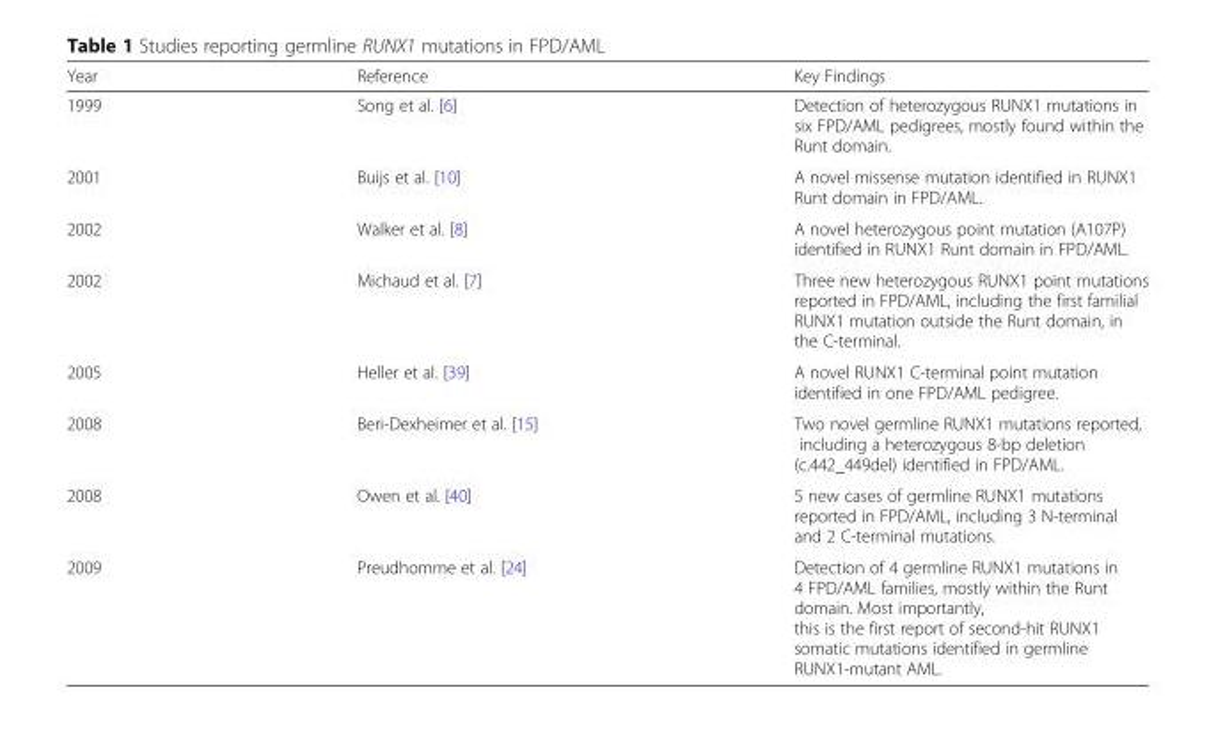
<table><thead><tr><td>Year</td><td>Reference</td><td>Key Findings</td></tr></thead><tbody><tr><td>1999</td><td>Song et al. [6]</td><td>Detection of heterozygous RUNX1 mutations in six FPD/AML pedigrees, mostly found within the Runt domain.</td></tr><tr><td>2001</td><td>Buijs et al. [10]</td><td>A novel missense mutation identified in RUNX1 Runt domain in FPD/AML.</td></tr><tr><td>2002</td><td>Walker et al. [8]</td><td>A novel heterozygous point mutation (A107P) identified in RUNX1 Runt domain in FPD/AML.</td></tr><tr><td>2002</td><td>Michaud et al. [7]</td><td>Three new heterozygous RUNX1 point mutations reported in FPD/AML, including the first familial RUNX1 mutation outside the Runt domain, in the C-terminal.</td></tr><tr><td>2005</td><td>Heller et al. [39]</td><td>A novel RUNX1 C-terminal point mutation identified in one FPD/AML pedigree.</td></tr><tr><td>2008</td><td>Beri-Dexheimer et al. [15]</td><td>Two novel germline RUNX1 mutations reported, including a heterozygous 8-bp deletion (c.442_449del) identified in FPD/AML.</td></tr><tr><td>2008</td><td>Owen et al. [40]</td><td>5 new cases of germline RUNX1 mutations reported in FPD/AML, including 3 N-terminal and 2 C-terminal mutations.</td></tr><tr><td>2009</td><td>Preudhomme et al. [24]</td><td>Detection of 4 germline RUNX1 mutations in 4 FPD/AML families, mostly within the Runt domain. Most importantly, this is the first report of second-hit RUNX1 somatic mutations identified in germline RUNX1-mutant AML.</td></tr></tbody></table>